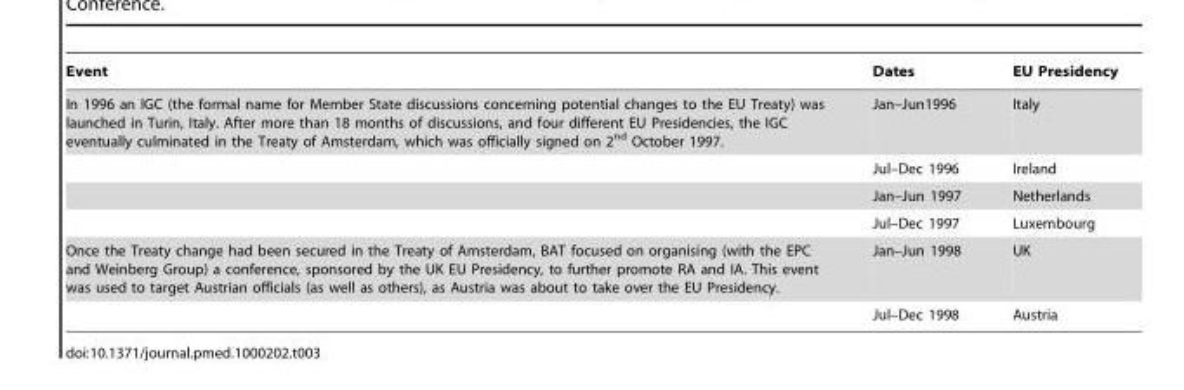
<table><thead><tr><td>Event</td><td>Dates</td><td>EU Presidency</td></tr></thead><tbody><tr><td rowspan="4">In 1996 an IGC (the formal name for Member State discussions concerning potential changes to the EU Treaty) was launched in Turin, Italy. After more than 18 months of discussions, and four different EU Presidencies, the IGC eventually culminated in the Treaty of Amsterdam, which was officially signed on 2<sup>nd</sup> October 1997.</td><td>Jan–Jun1996</td><td>Italy</td></tr><tr><td>Jul–Dec 1996</td><td>Ireland</td></tr><tr><td>Jan–Jun 1997</td><td>Netherlands</td></tr><tr><td>Jul–Dec 1997</td><td>Luxembourg</td></tr><tr><td rowspan="2">Once the Treaty change had been secured in the Treaty of Amsterdam, BAT focused on organising (with the EPC and Weinberg Group) a conference, sponsored by the UK EU Presidency, to further promote RA and IA. This event was used to target Austrian officials (as well as others), as Austria was about to take over the EU Presidency.</td><td>Jan–Jun 1998</td><td>UK</td></tr><tr><td>Jul–Dec 1998</td><td>Austria</td></tr></tbody></table>